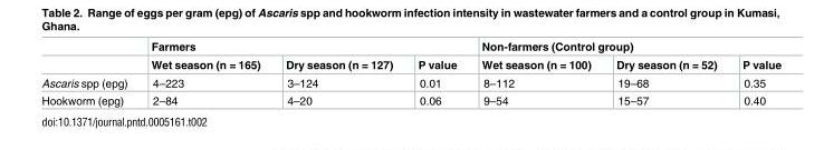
<table><thead><tr><td rowspan="2"></td><td colspan="3">Farmers</td><td colspan="3">Non-farmers (Control group)</td></tr><tr><td>Wet season (n = 165)</td><td>Dry season (n = 127)</td><td>P value</td><td>Wet season (n = 100)</td><td>Dry season (n = 52)</td><td>P value</td></tr></thead><tbody><tr><td>Ascaris spp (epg)</td><td>4–223</td><td>3–124</td><td>0.01</td><td>8–112</td><td>19–68</td><td>0.35</td></tr><tr><td>Hookworm (epg)</td><td>2–84</td><td>4–20</td><td>0.06</td><td>9–54</td><td>15–57</td><td>0.40</td></tr></tbody></table>